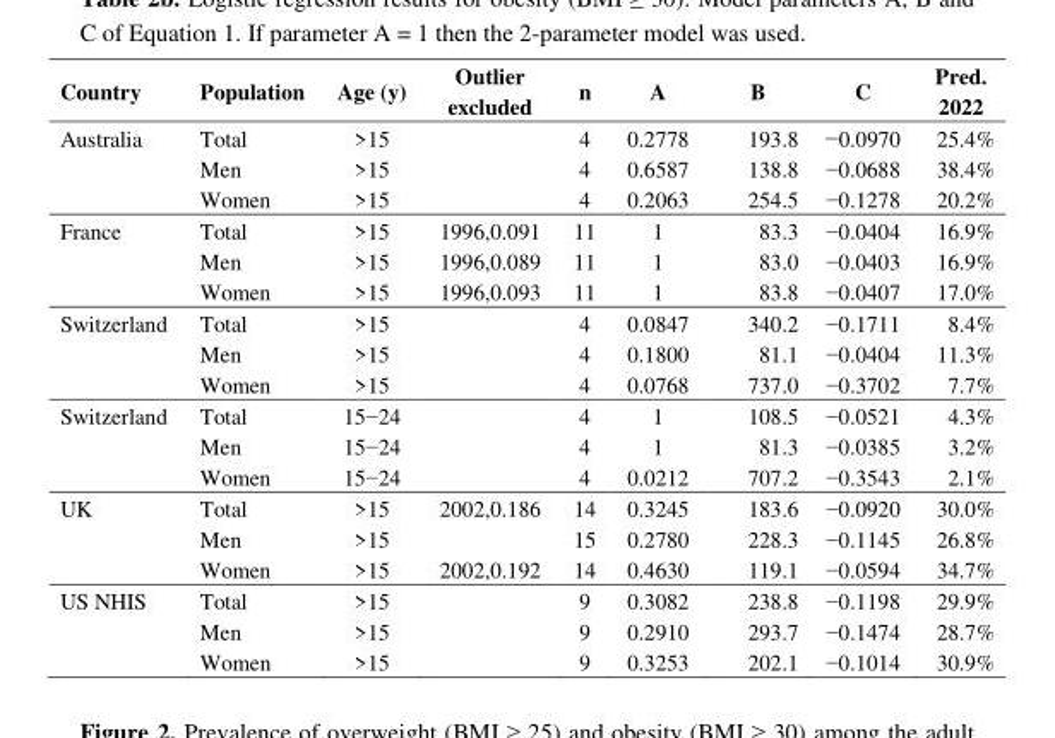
<table><thead><tr><td>Country</td><td>Population</td><td>Age (y)</td><td>Outlier excluded</td><td>n</td><td>A</td><td>B</td><td>C</td><td>Pred. 2022</td></tr></thead><tbody><tr><td rowspan="3">Australia</td><td>Total</td><td>&gt;15</td><td></td><td>4</td><td>0.2778</td><td>193.8</td><td>−0.0970</td><td>25.4%</td></tr><tr><td>Men</td><td>&gt;15</td><td></td><td>4</td><td>0.6587</td><td>138.8</td><td>−0.0688</td><td>38.4%</td></tr><tr><td>Women</td><td>&gt;15</td><td></td><td>4</td><td>0.2063</td><td>254.5</td><td>−0.1278</td><td>20.2%</td></tr><tr><td rowspan="3">France</td><td>Total</td><td>&gt;15</td><td>1996,0.091</td><td>11</td><td>1</td><td>83.3</td><td>−0.0404</td><td>16.9%</td></tr><tr><td>Men</td><td>&gt;15</td><td>1996,0.089</td><td>11</td><td>1</td><td>83.0</td><td>−0.0403</td><td>16.9%</td></tr><tr><td>Women</td><td>&gt;15</td><td>1996,0.093</td><td>11</td><td>1</td><td>83.8</td><td>−0.0407</td><td>17.0%</td></tr><tr><td rowspan="3">Switzerland</td><td>Total</td><td>&gt;15</td><td></td><td>4</td><td>0.0847</td><td>340.2</td><td>−0.1711</td><td>8.4%</td></tr><tr><td>Men</td><td>&gt;15</td><td></td><td>4</td><td>0.1800</td><td>81.1</td><td>−0.0404</td><td>11.3%</td></tr><tr><td>Women</td><td>&gt;15</td><td></td><td>4</td><td>0.0768</td><td>737.0</td><td>−0.3702</td><td>7.7%</td></tr><tr><td rowspan="3">Switzerland</td><td>Total</td><td>15−24</td><td></td><td>4</td><td>1</td><td>108.5</td><td>−0.0521</td><td>4.3%</td></tr><tr><td>Men</td><td>15−24</td><td></td><td>4</td><td>1</td><td>81.3</td><td>−0.0385</td><td>3.2%</td></tr><tr><td>Women</td><td>15−24</td><td></td><td>4</td><td>0.0212</td><td>707.2</td><td>−0.3543</td><td>2.1%</td></tr><tr><td rowspan="3">UK</td><td>Total</td><td>&gt;15</td><td>2002,0.186</td><td>14</td><td>0.3245</td><td>183.6</td><td>−0.0920</td><td>30.0%</td></tr><tr><td>Men</td><td>&gt;15</td><td></td><td>15</td><td>0.2780</td><td>228.3</td><td>−0.1145</td><td>26.8%</td></tr><tr><td>Women</td><td>&gt;15</td><td>2002,0.192</td><td>14</td><td>0.4630</td><td>119.1</td><td>−0.0594</td><td>34.7%</td></tr><tr><td rowspan="3">US NHIS</td><td>Total</td><td>&gt;15</td><td></td><td>9</td><td>0.3082</td><td>238.8</td><td>−0.1198</td><td>29.9%</td></tr><tr><td>Men</td><td>&gt;15</td><td></td><td>9</td><td>0.2910</td><td>293.7</td><td>−0.1474</td><td>28.7%</td></tr><tr><td>Women</td><td>&gt;15</td><td></td><td>9</td><td>0.3253</td><td>202.1</td><td>−0.1014</td><td>30.9%</td></tr></tbody></table>